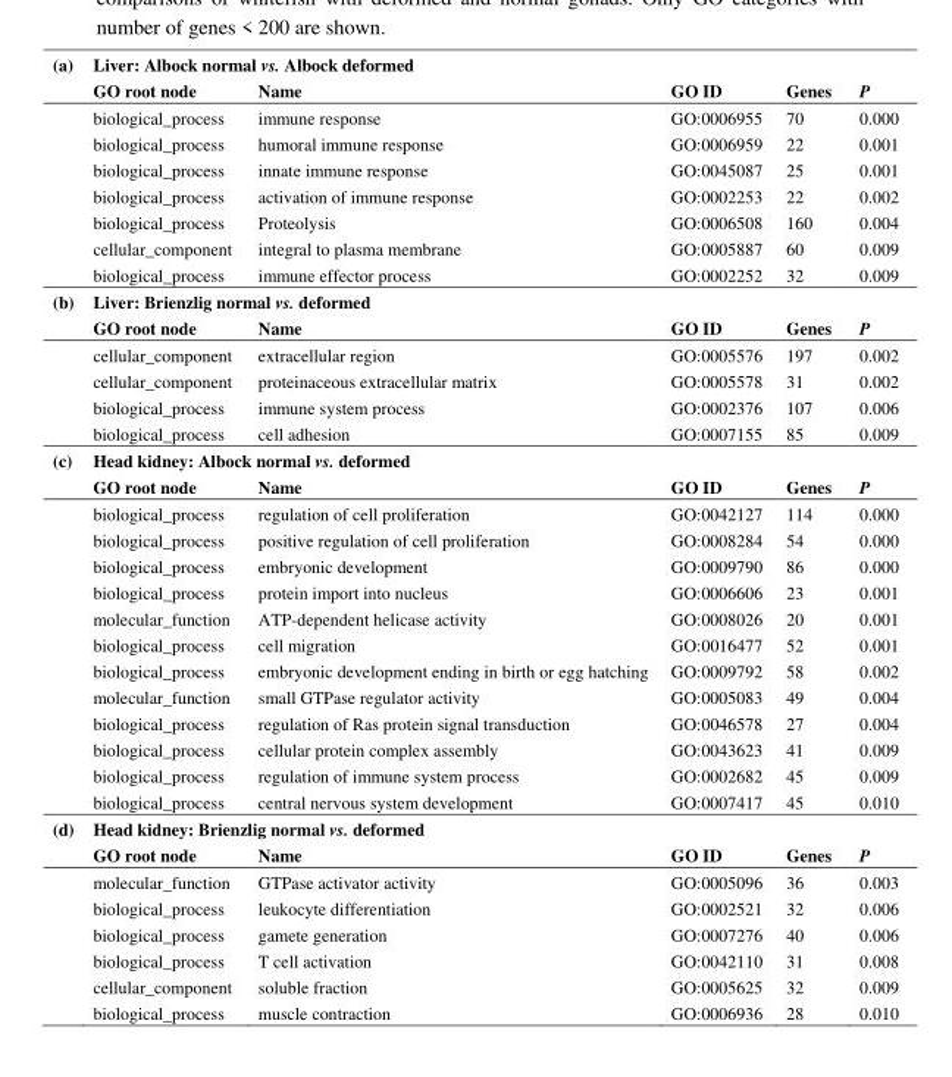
<table><thead><tr><td rowspan="2">(a)</td><td colspan="5">Liver: Albock normal vs. Albock deformed</td></tr><tr><td>GO root node</td><td>Name</td><td>GO ID</td><td>Genes</td><td>P</td></tr></thead><tbody><tr><td></td><td>biological_process</td><td>immune response</td><td>GO:0006955</td><td>70</td><td>0.000</td></tr><tr><td></td><td>biological_process</td><td>humoral immune response</td><td>GO:0006959</td><td>22</td><td>0.001</td></tr><tr><td></td><td>biological_process</td><td>innate immune response</td><td>GO:0045087</td><td>25</td><td>0.001</td></tr><tr><td></td><td>biological_process</td><td>activation of immune response</td><td>GO:0002253</td><td>22</td><td>0.002</td></tr><tr><td></td><td>biological_process</td><td>Proteolysis</td><td>GO:0006508</td><td>160</td><td>0.004</td></tr><tr><td></td><td>cellular_component</td><td>integral to plasma membrane</td><td>GO:0005887</td><td>60</td><td>0.009</td></tr><tr><td></td><td>biological_process</td><td>immune effector process</td><td>GO:0002252</td><td>32</td><td>0.009</td></tr><tr><td rowspan="6">(b)</td><td colspan="5">Liver: Brienzlig normal vs. deformed</td></tr><tr><td>GO root node</td><td>Name</td><td>GO ID</td><td>Genes</td><td>P</td></tr><tr><td>cellular_component</td><td>extracellular region</td><td>GO:0005576</td><td>197</td><td>0.002</td></tr><tr><td>cellular_component</td><td>proteinaceous extracellular matrix</td><td>GO:0005578</td><td>31</td><td>0.002</td></tr><tr><td>biological_process</td><td>immune system process</td><td>GO:0002376</td><td>107</td><td>0.006</td></tr><tr><td>biological_process</td><td>cell adhesion</td><td>GO:0007155</td><td>85</td><td>0.009</td></tr><tr><td rowspan="14">(c)</td><td colspan="5">Head kidney: Albock normal vs. deformed</td></tr><tr><td>GO root node</td><td>Name</td><td>GO ID</td><td>Genes</td><td>P</td></tr><tr><td>biological_process</td><td>regulation of cell proliferation</td><td>GO:0042127</td><td>114</td><td>0.000</td></tr><tr><td>biological_process</td><td>positive regulation of cell proliferation</td><td>GO:0008284</td><td>54</td><td>0.000</td></tr><tr><td>biological_process</td><td>embryonic development</td><td>GO:0009790</td><td>86</td><td>0.000</td></tr><tr><td>biological_process</td><td>protein import into nucleus</td><td>GO:0006606</td><td>23</td><td>0.001</td></tr><tr><td>molecular_function</td><td>ATP-dependent helicase activity</td><td>GO:0008026</td><td>20</td><td>0.001</td></tr><tr><td>biological_process</td><td>cell migration</td><td>GO:0016477</td><td>52</td><td>0.001</td></tr><tr><td>biological_process</td><td>embryonic development ending in birth or egg hatching</td><td>GO:0009792</td><td>58</td><td>0.002</td></tr><tr><td>molecular_function</td><td>small GTPase regulator activity</td><td>GO:0005083</td><td>49</td><td>0.004</td></tr><tr><td>biological_process</td><td>regulation of Ras protein signal transduction</td><td>GO:0046578</td><td>27</td><td>0.004</td></tr><tr><td>biological_process</td><td>cellular protein complex assembly</td><td>GO:0043623</td><td>41</td><td>0.009</td></tr><tr><td>biological_process</td><td>regulation of immune system process</td><td>GO:0002682</td><td>45</td><td>0.009</td></tr><tr><td>biological_process</td><td>central nervous system development</td><td>GO:0007417</td><td>45</td><td>0.010</td></tr><tr><td rowspan="8">(d)</td><td colspan="5">Head kidney: Brienzlig normal vs. deformed</td></tr><tr><td>GO root node</td><td>Name</td><td>GO ID</td><td>Genes</td><td>P</td></tr><tr><td>molecular_function</td><td>GTPase activator activity</td><td>GO:0005096</td><td>36</td><td>0.003</td></tr><tr><td>biological_process</td><td>leukocyte differentiation</td><td>GO:0002521</td><td>32</td><td>0.006</td></tr><tr><td>biological_process</td><td>gamete generation</td><td>GO:0007276</td><td>40</td><td>0.006</td></tr><tr><td>biological_process</td><td>T cell activation</td><td>GO:0042110</td><td>31</td><td>0.008</td></tr><tr><td>cellular_component</td><td>soluble fraction</td><td>GO:0005625</td><td>32</td><td>0.009</td></tr><tr><td>biological_process</td><td>muscle contraction</td><td>GO:0006936</td><td>28</td><td>0.010</td></tr></tbody></table>